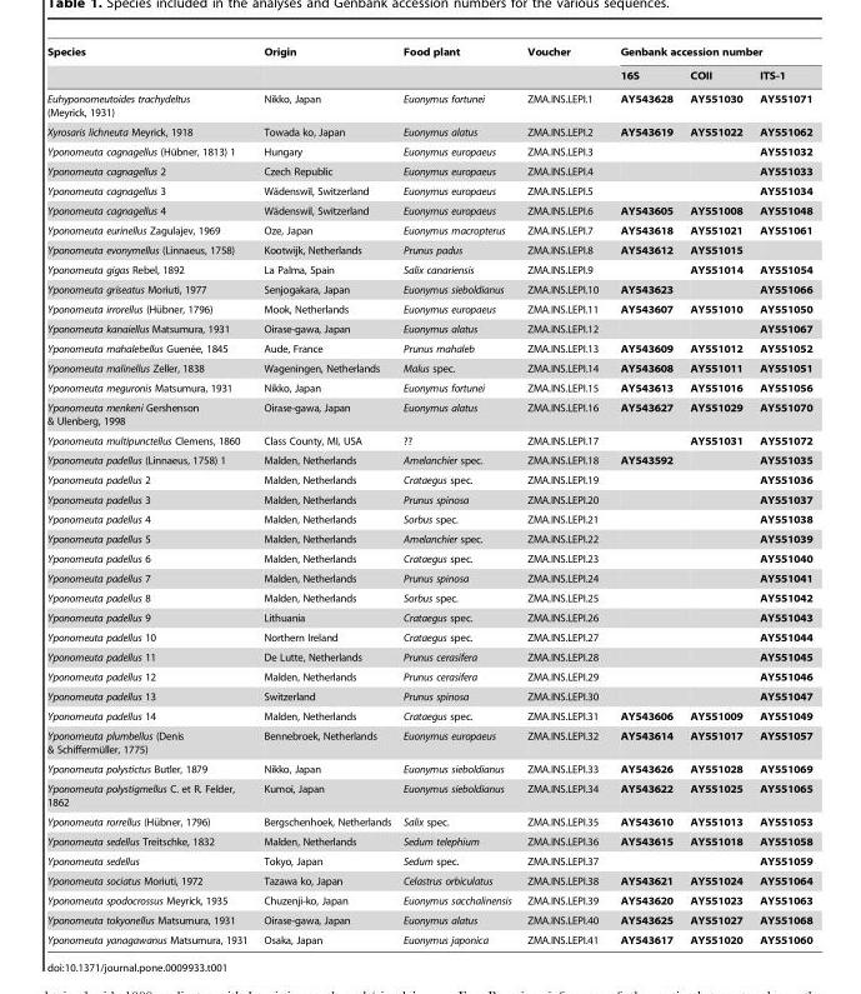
<table><thead><tr><td rowspan="2">Species</td><td rowspan="2">Origin</td><td rowspan="2">Food plant</td><td rowspan="2">Voucher</td><td colspan="3">Genbank accession number</td></tr><tr><td>16S</td><td>COII</td><td>ITS-1</td></tr></thead><tbody><tr><td>Euhyponomeutoides trachydeltus (Meyrick, 1931)</td><td>Nikko, Japan</td><td>Euonymus fortunei</td><td>ZMA.INS.LEPI.1</td><td>AY543628</td><td>AY551030</td><td>AY551071</td></tr><tr><td>Xyrosaris lichneuta Meyrick, 1918</td><td>Towada ko, Japan</td><td>Euonymus alatus</td><td>ZMA.INS.LEPI.2</td><td>AY543619</td><td>AY551022</td><td>AY551062</td></tr><tr><td>Yponomeuta cagnagellus (Hu¨bner, 1813) 1</td><td>Hungary</td><td>Euonymus europaeus</td><td>ZMA.INS.LEPI.3</td><td></td><td></td><td>AY551032</td></tr><tr><td>Yponomeuta cagnagellus 2</td><td>Czech Republic</td><td>Euonymus europaeus</td><td>ZMA.INS.LEPI.4</td><td></td><td></td><td>AY551033</td></tr><tr><td>Yponomeuta cagnagellus 3</td><td>Wa¨denswil, Switzerland</td><td>Euonymus europaeus</td><td>ZMA.INS.LEPI.5</td><td></td><td></td><td>AY551034</td></tr><tr><td>Yponomeuta cagnagellus 4</td><td>Wa¨denswil, Switzerland</td><td>Euonymus europaeus</td><td>ZMA.INS.LEPI.6</td><td>AY543605</td><td>AY551008</td><td>AY551048</td></tr><tr><td>Yponomeuta eurinellus Zagulajev, 1969</td><td>Oze, Japan</td><td>Euonymus macropterus</td><td>ZMA.INS.LEPI.7</td><td>AY543618</td><td>AY551021</td><td>AY551061</td></tr><tr><td>Yponomeuta evonymellus (Linnaeus, 1758)</td><td>Kootwijk, Netherlands</td><td>Prunus padus</td><td>ZMA.INS.LEPI.8</td><td>AY543612</td><td>AY551015</td><td></td></tr><tr><td>Yponomeuta gigas Rebel, 1892</td><td>La Palma, Spain</td><td>Salix canariensis</td><td>ZMA.INS.LEPI.9</td><td></td><td>AY551014</td><td>AY551054</td></tr><tr><td>Yponomeuta griseatus Moriuti, 1977</td><td>Senjogakara, Japan</td><td>Euonymus sieboldianus</td><td>ZMA.INS.LEPI.10</td><td>AY543623</td><td></td><td>AY551066</td></tr><tr><td>Yponomeuta irrorellus (Hu¨bner, 1796)</td><td>Mook, Netherlands</td><td>Euonymus europaeus</td><td>ZMA.INS.LEPI.11</td><td>AY543607</td><td>AY551010</td><td>AY551050</td></tr><tr><td>Yponomeuta kanaiellus Matsumura, 1931</td><td>Oirase-gawa, Japan</td><td>Euonymus alatus</td><td>ZMA.INS.LEPI.12</td><td></td><td></td><td>AY551067</td></tr><tr><td>Yponomeuta mahalebellus Guene´e, 1845</td><td>Aude, France</td><td>Prunus mahaleb</td><td>ZMA.INS.LEPI.13</td><td>AY543609</td><td>AY551012</td><td>AY551052</td></tr><tr><td>Yponomeuta malinellus Zeller, 1838</td><td>Wageningen, Netherlands</td><td>Malus spec.</td><td>ZMA.INS.LEPI.14</td><td>AY543608</td><td>AY551011</td><td>AY551051</td></tr><tr><td>Yponomeuta meguronis Matsumura, 1931</td><td>Nikko, Japan</td><td>Euonymus fortunei</td><td>ZMA.INS.LEPI.15</td><td>AY543613</td><td>AY551016</td><td>AY551056</td></tr><tr><td>Yponomeuta menkeni Gershenson &amp; Ulenberg, 1998</td><td>Oirase-gawa, Japan</td><td>Euonymus alatus</td><td>ZMA.INS.LEPI.16</td><td>AY543627</td><td>AY551029</td><td>AY551070</td></tr><tr><td>Yponomeuta multipunctellus Clemens, 1860</td><td>Class County, MI, USA</td><td>??</td><td>ZMA.INS.LEPI.17</td><td></td><td>AY551031</td><td>AY551072</td></tr><tr><td>Yponomeuta padellus (Linnaeus, 1758) 1</td><td>Malden, Netherlands</td><td>Amelanchier spec.</td><td>ZMA.INS.LEPI.18</td><td>AY543592</td><td></td><td>AY551035</td></tr><tr><td>Yponomeuta padellus 2</td><td>Malden, Netherlands</td><td>Crataegus spec.</td><td>ZMA.INS.LEPI.19</td><td></td><td></td><td>AY551036</td></tr><tr><td>Yponomeuta padellus 3</td><td>Malden, Netherlands</td><td>Prunus spinosa</td><td>ZMA.INS.LEPI.20</td><td></td><td></td><td>AY551037</td></tr><tr><td>Yponomeuta padellus 4</td><td>Malden, Netherlands</td><td>Sorbus spec.</td><td>ZMA.INS.LEPI.21</td><td></td><td></td><td>AY551038</td></tr><tr><td>Yponomeuta padellus 5</td><td>Malden, Netherlands</td><td>Amelanchier spec.</td><td>ZMA.INS.LEPI.22</td><td></td><td></td><td>AY551039</td></tr><tr><td>Yponomeuta padellus 6</td><td>Malden, Netherlands</td><td>Crataegus spec.</td><td>ZMA.INS.LEPI.23</td><td></td><td></td><td>AY551040</td></tr><tr><td>Yponomeuta padellus 7</td><td>Malden, Netherlands</td><td>Prunus spinosa</td><td>ZMA.INS.LEPI.24</td><td></td><td></td><td>AY551041</td></tr><tr><td>Yponomeuta padellus 8</td><td>Malden, Netherlands</td><td>Sorbus spec.</td><td>ZMA.INS.LEPI.25</td><td></td><td></td><td>AY551042</td></tr><tr><td>Yponomeuta padellus 9</td><td>Lithuania</td><td>Crataegus spec.</td><td>ZMA.INS.LEPI.26</td><td></td><td></td><td>AY551043</td></tr><tr><td>Yponomeuta padellus 10</td><td>Northern Ireland</td><td>Crataegus spec.</td><td>ZMA.INS.LEPI.27</td><td></td><td></td><td>AY551044</td></tr><tr><td>Yponomeuta padellus 11</td><td>De Lutte, Netherlands</td><td>Prunus cerasifera</td><td>ZMA.INS.LEPI.28</td><td></td><td></td><td>AY551045</td></tr><tr><td>Yponomeuta padellus 12</td><td>Malden, Netherlands</td><td>Prunus cerasifera</td><td>ZMA.INS.LEPI.29</td><td></td><td></td><td>AY551046</td></tr><tr><td>Yponomeuta padellus 13</td><td>Switzerland</td><td>Prunus spinosa</td><td>ZMA.INS.LEPI.30</td><td></td><td></td><td>AY551047</td></tr><tr><td>Yponomeuta padellus 14</td><td>Malden, Netherlands</td><td>Crataegus spec.</td><td>ZMA.INS.LEPI.31</td><td>AY543606</td><td>AY551009</td><td>AY551049</td></tr><tr><td>Yponomeuta plumbellus (Denis &amp; Schiffermu¨ller, 1775)</td><td>Bennebroek, Netherlands</td><td>Euonymus europaeus</td><td>ZMA.INS.LEPI.32</td><td>AY543614</td><td>AY551017</td><td>AY551057</td></tr><tr><td>Yponomeuta polystictus Butler, 1879</td><td>Nikko, Japan</td><td>Euonymus sieboldianus</td><td>ZMA.INS.LEPI.33</td><td>AY543626</td><td>AY551028</td><td>AY551069</td></tr><tr><td>Yponomeuta polystigmellus C. et R. Felder, 1862</td><td>Kumoi, Japan</td><td>Euonymus sieboldianus</td><td>ZMA.INS.LEPI.34</td><td>AY543622</td><td>AY551025</td><td>AY551065</td></tr><tr><td>Yponomeuta rorrellus (Hu¨bner, 1796)</td><td>Bergschenhoek, Netherlands</td><td>Salix spec.</td><td>ZMA.INS.LEPI.35</td><td>AY543610</td><td>AY551013</td><td>AY551053</td></tr><tr><td>Yponomeuta sedellus Treitschke, 1832</td><td>Malden, Netherlands</td><td>Sedum telephium</td><td>ZMA.INS.LEPI.36</td><td>AY543615</td><td>AY551018</td><td>AY551058</td></tr><tr><td>Yponomeuta sedellus</td><td>Tokyo, Japan</td><td>Sedum spec.</td><td>ZMA.INS.LEPI.37</td><td></td><td></td><td>AY551059</td></tr><tr><td>Yponomeuta sociatus Moriuti, 1972</td><td>Tazawa ko, Japan</td><td>Celastrus orbiculatus</td><td>ZMA.INS.LEPI.38</td><td>AY543621</td><td>AY551024</td><td>AY551064</td></tr><tr><td>Yponomeuta spodocrossus Meyrick, 1935</td><td>Chuzenji-ko, Japan</td><td>Euonymus sacchalinensis</td><td>ZMA.INS.LEPI.39</td><td>AY543620</td><td>AY551023</td><td>AY551063</td></tr><tr><td>Yponomeuta tokyonellus Matsumura, 1931</td><td>Oirase-gawa, Japan</td><td>Euonymus alatus</td><td>ZMA.INS.LEPI.40</td><td>AY543625</td><td>AY551027</td><td>AY551068</td></tr><tr><td>Yponomeuta yanagawanus Matsumura, 1931</td><td>Osaka, Japan</td><td>Euonymus japonica</td><td>ZMA.INS.LEPI.41</td><td>AY543617</td><td>AY551020</td><td>AY551060</td></tr></tbody></table>